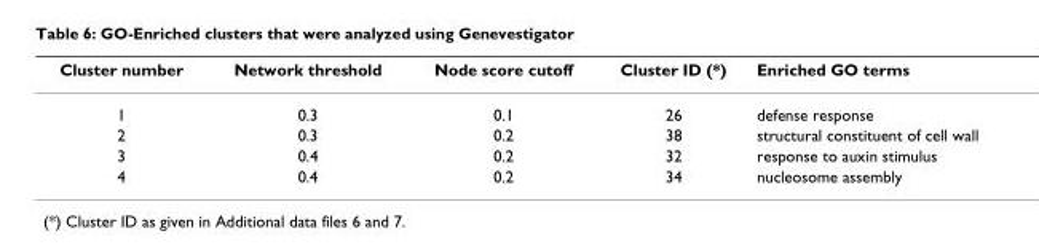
<table><thead><tr><td>Cluster number</td><td>Network threshold</td><td>Node score cutoff</td><td>Cluster ID (*)</td><td>Enriched GO terms</td></tr></thead><tbody><tr><td>1</td><td>0.3</td><td>0.1</td><td>26</td><td>defense response</td></tr><tr><td>2</td><td>0.3</td><td>0.2</td><td>38</td><td>structural constituent of cell wall</td></tr><tr><td>3</td><td>0.4</td><td>0.2</td><td>32</td><td>response to auxin stimulus</td></tr><tr><td>4</td><td>0.4</td><td>0.2</td><td>34</td><td>nucleosome assembly</td></tr></tbody></table>